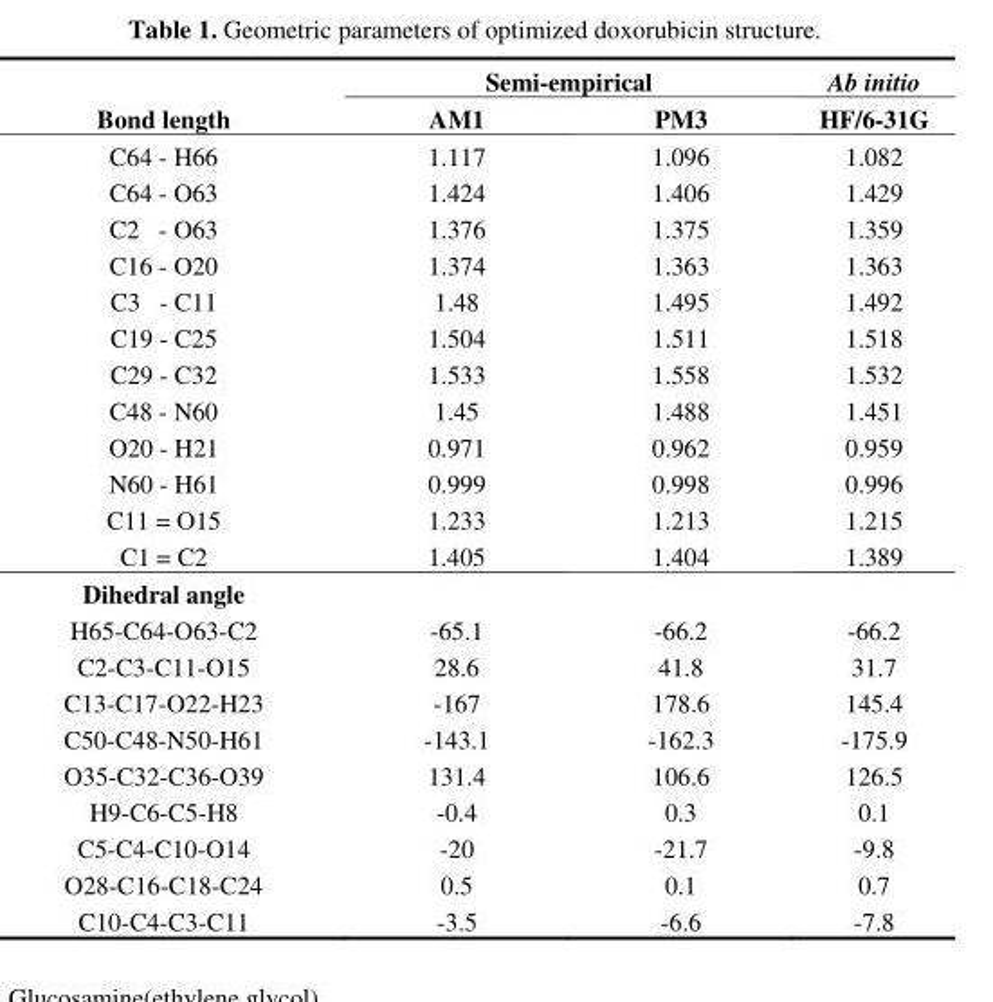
<table><thead><tr><td rowspan="2">Bond length</td><td colspan="2">Semi-empirical</td><td rowspan="2">Ab initio HF/6-31G</td></tr><tr><td>AM1</td><td>PM3</td></tr></thead><tbody><tr><td>C64 - H66</td><td>1.117</td><td>1.096</td><td>1.082</td></tr><tr><td>C64 - O63</td><td>1.424</td><td>1.406</td><td>1.429</td></tr><tr><td>C2 - O63</td><td>1.376</td><td>1.375</td><td>1.359</td></tr><tr><td>C16 - O20</td><td>1.374</td><td>1.363</td><td>1.363</td></tr><tr><td>C3 - C11</td><td>1.48</td><td>1.495</td><td>1.492</td></tr><tr><td>C19 - C25</td><td>1.504</td><td>1.511</td><td>1.518</td></tr><tr><td>C29 - C32</td><td>1.533</td><td>1.558</td><td>1.532</td></tr><tr><td>C48 - N60</td><td>1.45</td><td>1.488</td><td>1.451</td></tr><tr><td>O20 - H21</td><td>0.971</td><td>0.962</td><td>0.959</td></tr><tr><td>N60 - H61</td><td>0.999</td><td>0.998</td><td>0.996</td></tr><tr><td>C11 = O15</td><td>1.233</td><td>1.213</td><td>1.215</td></tr><tr><td>C1 = C2</td><td>1.405</td><td>1.404</td><td>1.389</td></tr><tr><td colspan="4">Dihedral angle</td></tr><tr><td>H65-C64-O63-C2</td><td>-65.1</td><td>-66.2</td><td>-66.2</td></tr><tr><td>C2-C3-C11-O15</td><td>28.6</td><td>41.8</td><td>31.7</td></tr><tr><td>C13-C17-O22-H23</td><td>-167</td><td>178.6</td><td>145.4</td></tr><tr><td>C50-C48-N50-H61</td><td>-143.1</td><td>-162.3</td><td>-175.9</td></tr><tr><td>O35-C32-C36-O39</td><td>131.4</td><td>106.6</td><td>126.5</td></tr><tr><td>H9-C6-C5-H8</td><td>-0.4</td><td>0.3</td><td>0.1</td></tr><tr><td>C5-C4-C10-O14</td><td>-20</td><td>-21.7</td><td>-9.8</td></tr><tr><td>O28-C16-C18-C24</td><td>0.5</td><td>0.1</td><td>0.7</td></tr><tr><td>C10-C4-C3-C11</td><td>-3.5</td><td>-6.6</td><td>-7.8</td></tr></tbody></table>